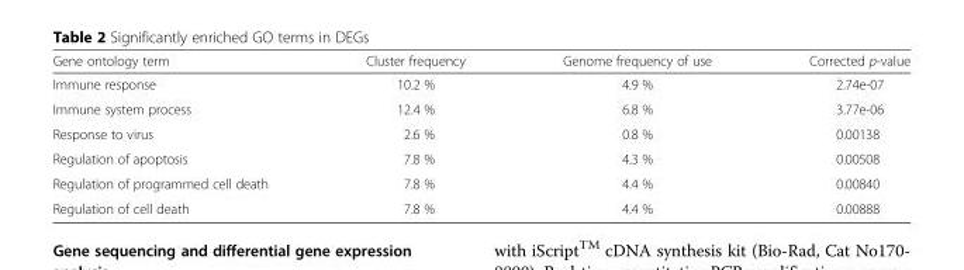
<table><thead><tr><td>Gene ontology term</td><td>Cluster frequency</td><td>Genome frequency of use</td><td>Corrected p-value</td></tr></thead><tbody><tr><td>Immune response</td><td>10.2 %</td><td>4.9 %</td><td>2.74e-07</td></tr><tr><td>Immune system process</td><td>12.4 %</td><td>6.8 %</td><td>3.77e-06</td></tr><tr><td>Response to virus</td><td>2.6 %</td><td>0.8 %</td><td>0.00138</td></tr><tr><td>Regulation of apoptosis</td><td>7.8 %</td><td>4.3 %</td><td>0.00508</td></tr><tr><td>Regulation of programmed cell death</td><td>7.8 %</td><td>4.4 %</td><td>0.00840</td></tr><tr><td>Regulation of cell death</td><td>7.8 %</td><td>4.4 %</td><td>0.00888</td></tr></tbody></table>